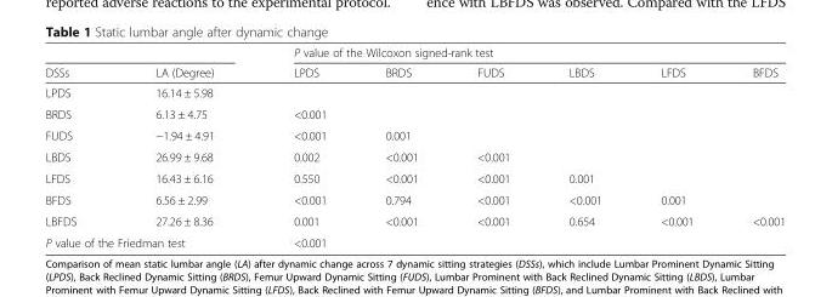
<table><thead><tr><td rowspan="2">DSSs</td><td rowspan="2">LA (Degree)</td><td colspan="6">P value of the Wilcoxon signed-rank test</td></tr><tr><td>LPDS</td><td>BRDS</td><td>FUDS</td><td>LBDS</td><td>LFDS</td><td>BFDS</td></tr></thead><tbody><tr><td>LPDS</td><td colspan="7">16.14 ± 5.98</td></tr><tr><td>BRDS</td><td>6.13 ± 4.75</td><td colspan="6">&lt;0.001</td></tr><tr><td>FUDS</td><td>−1.94 ± 4.91</td><td>&lt;0.001</td><td colspan="5">0.001</td></tr><tr><td>LBDS</td><td>26.99 ± 9.68</td><td>0.002</td><td>&lt;0.001</td><td colspan="4">&lt;0.001</td></tr><tr><td>LFDS</td><td>16.43 ± 6.16</td><td>0.550</td><td>&lt;0.001</td><td>&lt;0.001</td><td colspan="3">0.001</td></tr><tr><td>BFDS</td><td>6.56 ± 2.99</td><td>&lt;0.001</td><td>0.794</td><td>&lt;0.001</td><td>&lt;0.001</td><td colspan="2">0.001</td></tr><tr><td>LBFDS</td><td>27.26 ± 8.36</td><td>0.001</td><td>&lt;0.001</td><td>&lt;0.001</td><td>0.654</td><td>&lt;0.001</td><td>&lt;0.001</td></tr><tr><td colspan="2">P value of the Friedman test</td><td colspan="6">&lt;0.001</td></tr></tbody></table>